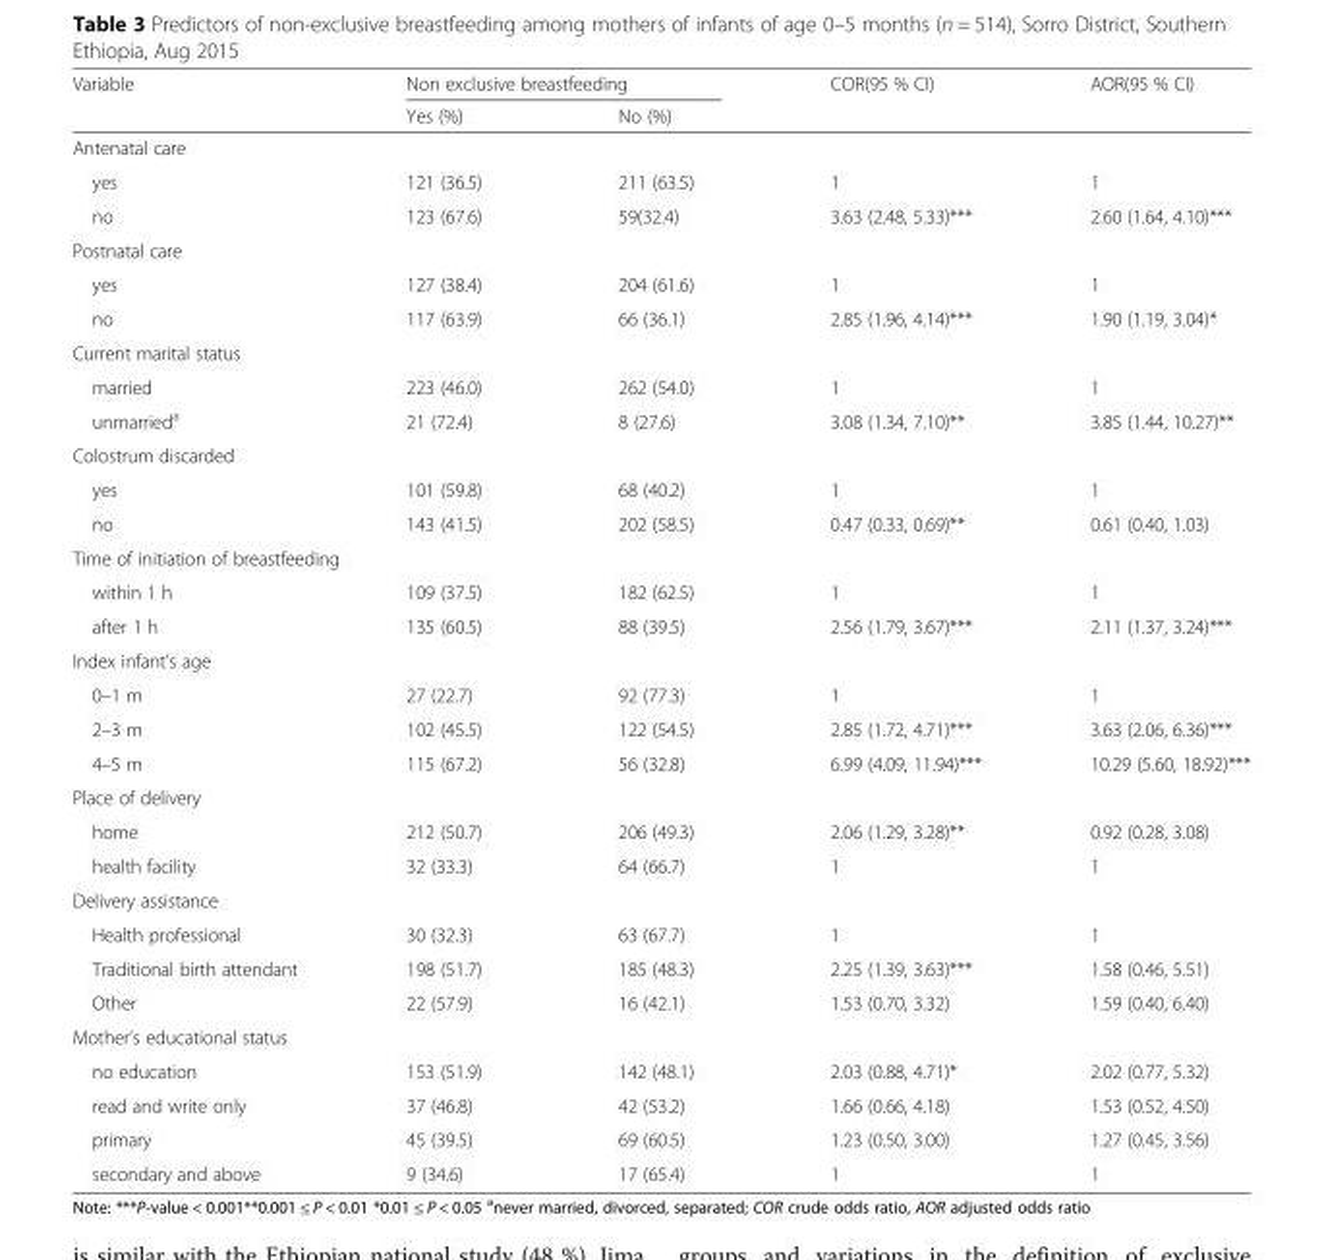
<table><thead><tr><td rowspan="2">Variable</td><td colspan="2">Non exclusive breastfeeding</td><td rowspan="2">COR(95 % CI)</td><td rowspan="2">AOR(95 % CI)</td></tr><tr><td>Yes (%)</td><td>No (%)</td></tr></thead><tbody><tr><td colspan="5">Antenatal care</td></tr><tr><td>yes</td><td>121 (36.5)</td><td>211 (63.5)</td><td>1</td><td>1</td></tr><tr><td>no</td><td>123 (67.6)</td><td>59(32.4)</td><td>3.63 (2.48, 5.33)***</td><td>2.60 (1.64, 4.10)***</td></tr><tr><td colspan="5">Postnatal care</td></tr><tr><td>yes</td><td>127 (38.4)</td><td>204 (61.6)</td><td>1</td><td>1</td></tr><tr><td>no</td><td>117 (63.9)</td><td>66 (36.1)</td><td>2.85 (1.96, 4.14)***</td><td>1.90 (1.19, 3.04)*</td></tr><tr><td colspan="5">Current marital status</td></tr><tr><td>married</td><td>223 (46.0)</td><td>262 (54.0)</td><td>1</td><td>1</td></tr><tr><td>unmarried<sup>a</sup></td><td>21 (72.4)</td><td>8 (27.6)</td><td>3.08 (1.34, 7.10)**</td><td>3.85 (1.44, 10.27)**</td></tr><tr><td colspan="5">Colostrum discarded</td></tr><tr><td>yes</td><td>101 (59.8)</td><td>68 (40.2)</td><td>1</td><td>1</td></tr><tr><td>no</td><td>143 (41.5)</td><td>202 (58.5)</td><td>0.47 (0.33, 0.69)**</td><td>0.61 (0.40, 1.03)</td></tr><tr><td colspan="5">Time of initiation of breastfeeding</td></tr><tr><td>within 1 h</td><td>109 (37.5)</td><td>182 (62.5)</td><td>1</td><td>1</td></tr><tr><td>after 1 h</td><td>135 (60.5)</td><td>88 (39.5)</td><td>2.56 (1.79, 3.67)***</td><td>2.11 (1.37, 3.24)***</td></tr><tr><td colspan="5">Index infant’s age</td></tr><tr><td>0–1 m</td><td>27 (22.7)</td><td>92 (77.3)</td><td>1</td><td>1</td></tr><tr><td>2–3 m</td><td>102 (45.5)</td><td>122 (54.5)</td><td>2.85 (1.72, 4.71)***</td><td>3.63 (2.06, 6.36)***</td></tr><tr><td>4–5 m</td><td>115 (67.2)</td><td>56 (32.8)</td><td>6.99 (4.09, 11.94)***</td><td>10.29 (5.60, 18.92)***</td></tr><tr><td colspan="5">Place of delivery</td></tr><tr><td>home</td><td>212 (50.7)</td><td>206 (49.3)</td><td>2.06 (1.29, 3.28)**</td><td>0.92 (0.28, 3.08)</td></tr><tr><td>health facility</td><td>32 (33.3)</td><td>64 (66.7)</td><td>1</td><td>1</td></tr><tr><td colspan="5">Delivery assistance</td></tr><tr><td>Health professional</td><td>30 (32.3)</td><td>63 (67.7)</td><td>1</td><td>1</td></tr><tr><td>Traditional birth attendant</td><td>198 (51.7)</td><td>185 (48.3)</td><td>2.25 (1.39, 3.63)***</td><td>1.58 (0.46, 5.51)</td></tr><tr><td>Other</td><td>22 (57.9)</td><td>16 (42.1)</td><td>1.53 (0.70, 3.32)</td><td>1.59 (0.40, 6.40)</td></tr><tr><td colspan="5">Mother’s educational status</td></tr><tr><td>no education</td><td>153 (51.9)</td><td>142 (48.1)</td><td>2.03 (0.88, 4.71)*</td><td>2.02 (0.77, 5.32)</td></tr><tr><td>read and write only</td><td>37 (46.8)</td><td>42 (53.2)</td><td>1.66 (0.66, 4.18)</td><td>1.53 (0.52, 4.50)</td></tr><tr><td>primary</td><td>45 (39.5)</td><td>69 (60.5)</td><td>1.23 (0.50, 3.00)</td><td>1.27 (0.45, 3.56)</td></tr><tr><td>secondary and above</td><td>9 (34.6)</td><td>17 (65.4)</td><td>1</td><td>1</td></tr></tbody></table>